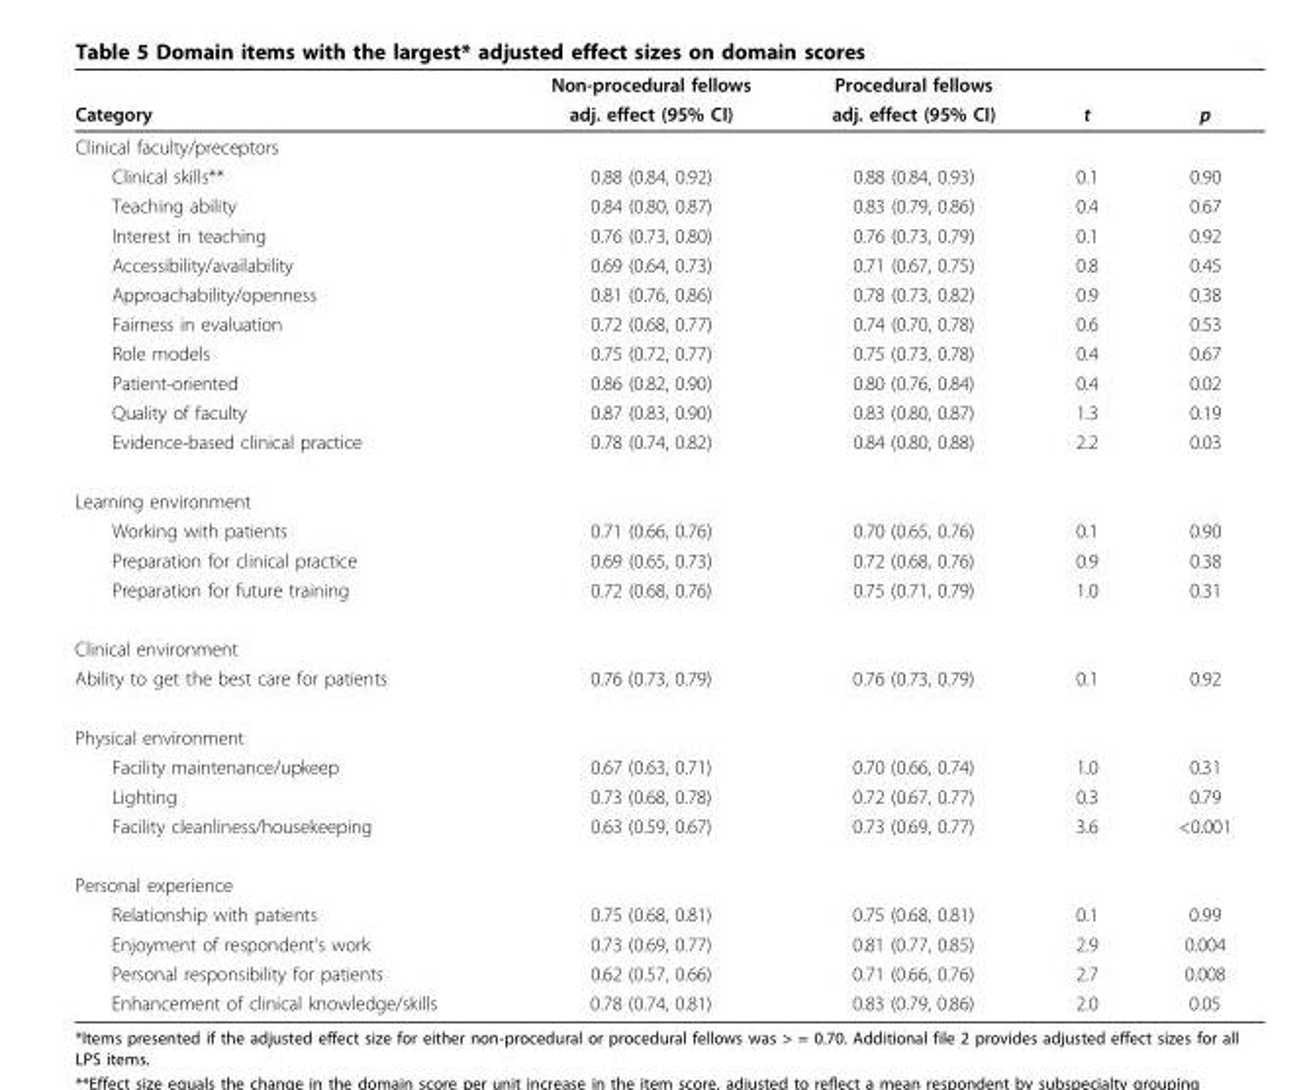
<table><thead><tr><td rowspan="2">Category</td><td rowspan="2">Non-procedural fellows adj. effect (95% CI)</td><td rowspan="2">Procedural fellows adj. effect (95% CI)</td><td rowspan="2">t</td><td rowspan="2">p</td></tr><tr></tr></thead><tbody><tr><td colspan="5">Clinical faculty/preceptors</td></tr><tr><td>Clinical skills**</td><td>0.88 (0.84, 0.92)</td><td>0.88 (0.84, 0.93)</td><td>0.1</td><td>0.90</td></tr><tr><td>Teaching ability</td><td>0.84 (0.80, 0.87)</td><td>0.83 (0.79, 0.86)</td><td>0.4</td><td>0.67</td></tr><tr><td>Interest in teaching</td><td>0.76 (0.73, 0.80)</td><td>0.76 (0.73, 0.79)</td><td>0.1</td><td>0.92</td></tr><tr><td>Accessibility/availability</td><td>0.69 (0.64, 0.73)</td><td>0.71 (0.67, 0.75)</td><td>0.8</td><td>0.45</td></tr><tr><td>Approachability/openness</td><td>0.81 (0.76, 0.86)</td><td>0.78 (0.73, 0.82)</td><td>0.9</td><td>0.38</td></tr><tr><td>Fairness in evaluation</td><td>0.72 (0.68, 0.77)</td><td>0.74 (0.70, 0.78)</td><td>0.6</td><td>0.53</td></tr><tr><td>Role models</td><td>0.75 (0.72, 0.77)</td><td>0.75 (0.73, 0.78)</td><td>0.4</td><td>0.67</td></tr><tr><td>Patient-oriented</td><td>0.86 (0.82, 0.90)</td><td>0.80 (0.76, 0.84)</td><td>0.4</td><td>0.02</td></tr><tr><td>Quality of faculty</td><td>0.87 (0.83, 0.90)</td><td>0.83 (0.80, 0.87)</td><td>1.3</td><td>0.19</td></tr><tr><td>Evidence-based clinical practice</td><td>0.78 (0.74, 0.82)</td><td>0.84 (0.80, 0.88)</td><td>2.2</td><td>0.03</td></tr><tr><td colspan="5">Learning environment</td></tr><tr><td>Working with patients</td><td>0.71 (0.66, 0.76)</td><td>0.70 (0.65, 0.76)</td><td>0.1</td><td>0.90</td></tr><tr><td>Preparation for clinical practice</td><td>0.69 (0.65, 0.73)</td><td>0.72 (0.68, 0.76)</td><td>0.9</td><td>0.38</td></tr><tr><td>Preparation for future training</td><td>0.72 (0.68, 0.76)</td><td>0.75 (0.71, 0.79)</td><td>1.0</td><td>0.31</td></tr><tr><td colspan="5">Clinical environment</td></tr><tr><td>Ability to get the best care for patients</td><td>0.76 (0.73, 0.79)</td><td>0.76 (0.73, 0.79)</td><td>0.1</td><td>0.92</td></tr><tr><td colspan="5">Physical environment</td></tr><tr><td>Facility maintenance/upkeep</td><td>0.67 (0.63, 0.71)</td><td>0.70 (0.66, 0.74)</td><td>1.0</td><td>0.31</td></tr><tr><td>Lighting</td><td>0.73 (0.68, 0.78)</td><td>0.72 (0.67, 0.77)</td><td>0.3</td><td>0.79</td></tr><tr><td>Facility cleanliness/housekeeping</td><td>0.63 (0.59, 0.67)</td><td>0.73 (0.69, 0.77)</td><td>3.6</td><td>&lt;0.001</td></tr><tr><td colspan="5">Personal experience</td></tr><tr><td>Relationship with patients</td><td>0.75 (0.68, 0.81)</td><td>0.75 (0.68, 0.81)</td><td>0.1</td><td>0.99</td></tr><tr><td>Enjoyment of respondent’s work</td><td>0.73 (0.69, 0.77)</td><td>0.81 (0.77, 0.85)</td><td>2.9</td><td>0.004</td></tr><tr><td>Personal responsibility for patients</td><td>0.62 (0.57, 0.66)</td><td>0.71 (0.66, 0.76)</td><td>2.7</td><td>0.008</td></tr><tr><td>Enhancement of clinical knowledge/skills</td><td>0.78 (0.74, 0.81)</td><td>0.83 (0.79, 0.86)</td><td>2.0</td><td>0.05</td></tr></tbody></table>